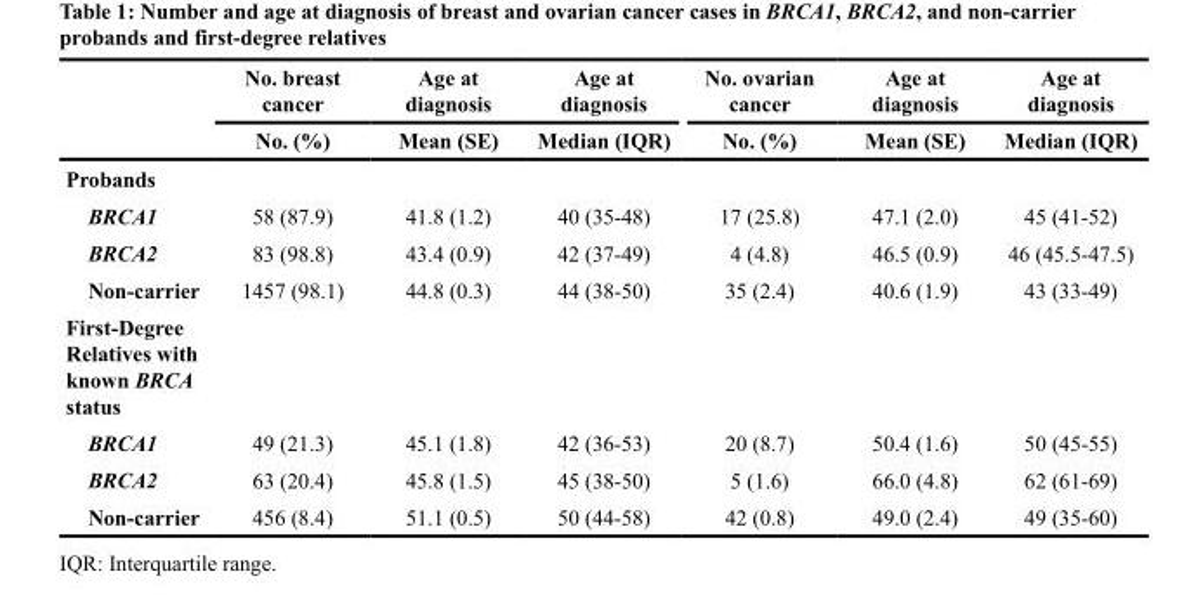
<table><thead><tr><td rowspan="2"></td><td rowspan="2">No. breast cancer No. (%)</td><td rowspan="2">Age at diagnosis Mean (SE)</td><td rowspan="2">Age at diagnosis Median (IQR)</td><td rowspan="2">No. ovarian cancer No. (%)</td><td rowspan="2">Age at diagnosis Mean (SE)</td><td rowspan="2">Age at diagnosis Median (IQR)</td></tr><tr></tr></thead><tbody><tr><td colspan="7">Probands</td></tr><tr><td>BRCA1</td><td>58 (87.9)</td><td>41.8 (1.2)</td><td>40 (35-48)</td><td>17 (25.8)</td><td>47.1 (2.0)</td><td>45 (41-52)</td></tr><tr><td>BRCA2</td><td>83 (98.8)</td><td>43.4 (0.9)</td><td>42 (37-49)</td><td>4 (4.8)</td><td>46.5 (0.9)</td><td>46 (45.5-47.5)</td></tr><tr><td>Non-carrier</td><td>1457 (98.1)</td><td>44.8 (0.3)</td><td>44 (38-50)</td><td>35 (2.4)</td><td>40.6 (1.9)</td><td>43 (33-49)</td></tr><tr><td colspan="7">First-Degree Relatives with known BRCA status</td></tr><tr><td>BRCA1</td><td>49 (21.3)</td><td>45.1 (1.8)</td><td>42 (36-53)</td><td>20 (8.7)</td><td>50.4 (1.6)</td><td>50 (45-55)</td></tr><tr><td>BRCA2</td><td>63 (20.4)</td><td>45.8 (1.5)</td><td>45 (38-50)</td><td>5 (1.6)</td><td>66.0 (4.8)</td><td>62 (61-69)</td></tr><tr><td>Non-carrier</td><td>456 (8.4)</td><td>51.1 (0.5)</td><td>50 (44-58)</td><td>42 (0.8)</td><td>49.0 (2.4)</td><td>49 (35-60)</td></tr></tbody></table>